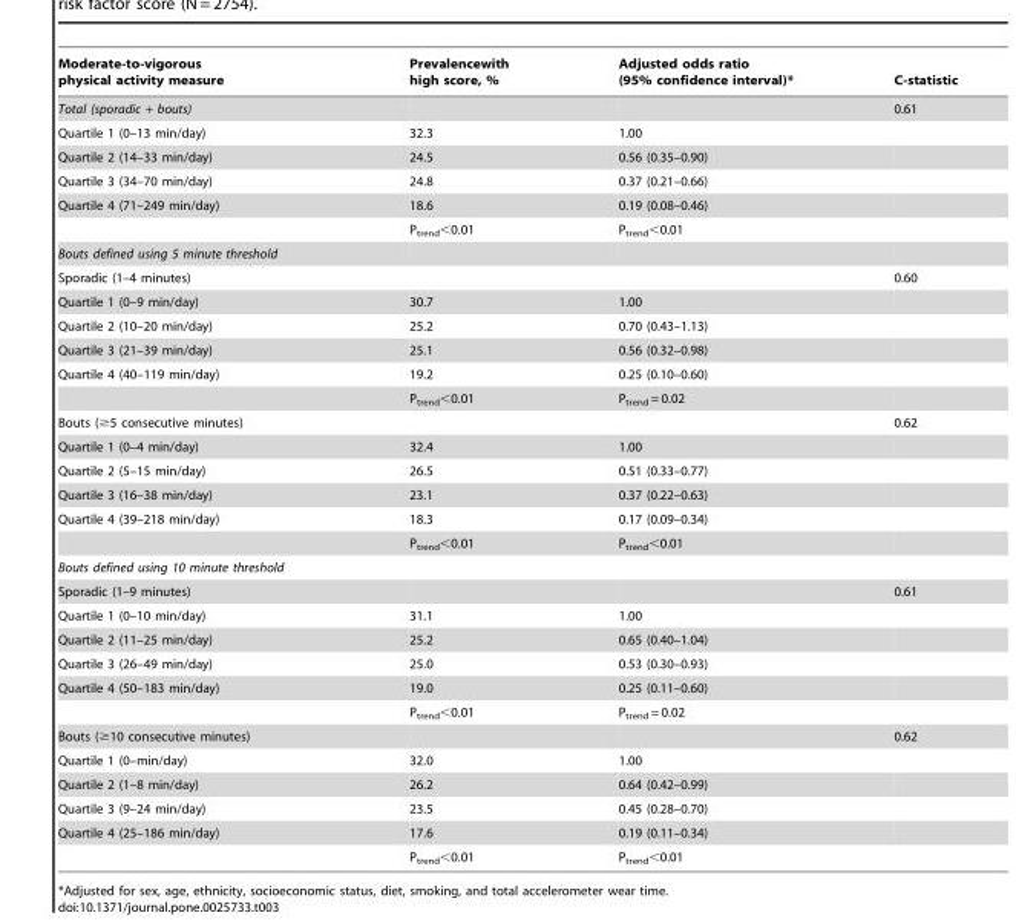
<table><thead><tr><td>Moderate-to-vigorous physical activity measure</td><td>Prevalencewith high score, %</td><td>Adjusted odds ratio (95% confidence interval)*</td><td>C-statistic</td></tr></thead><tbody><tr><td>Total (sporadic + bouts)</td><td></td><td></td><td>0.61</td></tr><tr><td>Quartile 1 (0–13 min/day)</td><td>32.3</td><td>1.00</td><td></td></tr><tr><td>Quartile 2 (14–33 min/day)</td><td>24.5</td><td>0.56 (0.35–0.90)</td><td></td></tr><tr><td>Quartile 3 (34–70 min/day)</td><td>24.8</td><td>0.37 (0.21–0.66)</td><td></td></tr><tr><td rowspan="2">Quartile 4 (71–249 min/day)</td><td>18.6</td><td>0.19 (0.08–0.46)</td><td></td></tr><tr><td>P<sub>trend</sub>&lt;0.01</td><td>P<sub>trend</sub>&lt;0.01</td><td></td></tr><tr><td colspan="4">Bouts defined using 5 minute threshold</td></tr><tr><td>Sporadic (1–4 minutes)</td><td></td><td></td><td>0.60</td></tr><tr><td>Quartile 1 (0–9 min/day)</td><td>30.7</td><td>1.00</td><td></td></tr><tr><td>Quartile 2 (10–20 min/day)</td><td>25.2</td><td>0.70 (0.43–1.13)</td><td></td></tr><tr><td>Quartile 3 (21–39 min/day)</td><td>25.1</td><td>0.56 (0.32–0.98)</td><td></td></tr><tr><td rowspan="2">Quartile 4 (40–119 min/day)</td><td>19.2</td><td>0.25 (0.10–0.60)</td><td></td></tr><tr><td>P<sub>trend</sub>&lt;0.01</td><td>P<sub>trend</sub> = 0.02</td><td></td></tr><tr><td>Bouts (≥5 consecutive minutes)</td><td></td><td></td><td>0.62</td></tr><tr><td>Quartile 1 (0–4 min/day)</td><td>32.4</td><td>1.00</td><td></td></tr><tr><td>Quartile 2 (5–15 min/day)</td><td>26.5</td><td>0.51 (0.33–0.77)</td><td></td></tr><tr><td>Quartile 3 (16–38 min/day)</td><td>23.1</td><td>0.37 (0.22–0.63)</td><td></td></tr><tr><td rowspan="2">Quartile 4 (39–218 min/day)</td><td>18.3</td><td>0.17 (0.09–0.34)</td><td></td></tr><tr><td>P<sub>trend</sub>&lt;0.01</td><td>P<sub>trend</sub>&lt;0.01</td><td></td></tr><tr><td colspan="4">Bouts defined using 10 minute threshold</td></tr><tr><td>Sporadic (1–9 minutes)</td><td></td><td></td><td>0.61</td></tr><tr><td>Quartile 1 (0–10 min/day)</td><td>31.1</td><td>1.00</td><td></td></tr><tr><td>Quartile 2 (11–25 min/day)</td><td>25.2</td><td>0.65 (0.40–1.04)</td><td></td></tr><tr><td>Quartile 3 (26–49 min/day)</td><td>25.0</td><td>0.53 (0.30–0.93)</td><td></td></tr><tr><td rowspan="2">Quartile 4 (50–183 min/day)</td><td>19.0</td><td>0.25 (0.11–0.60)</td><td></td></tr><tr><td>P<sub>trend</sub>&lt;0.01</td><td>P<sub>trend</sub> = 0.02</td><td></td></tr><tr><td>Bouts (≥10 consecutive minutes)</td><td></td><td></td><td>0.62</td></tr><tr><td>Quartile 1 (0–min/day)</td><td>32.0</td><td>1.00</td><td></td></tr><tr><td>Quartile 2 (1–8 min/day)</td><td>26.2</td><td>0.64 (0.42–0.99)</td><td></td></tr><tr><td>Quartile 3 (9–24 min/day)</td><td>23.5</td><td>0.45 (0.28–0.70)</td><td></td></tr><tr><td rowspan="2">Quartile 4 (25–186 min/day)</td><td>17.6</td><td>0.19 (0.11–0.34)</td><td></td></tr><tr><td>P<sub>trend</sub>&lt;0.01</td><td>P<sub>trend</sub>&lt;0.01</td><td></td></tr></tbody></table>